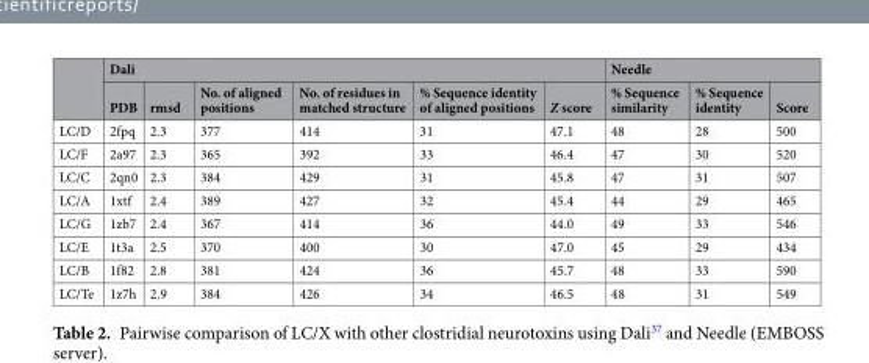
<table><thead><tr><td rowspan="2"></td><td colspan="6">Dali</td><td colspan="3">Needle</td></tr><tr><td>PDB</td><td>rmsd</td><td>No. of aligned positions</td><td>No. of residues in matched structure</td><td>% Sequence identity of aligned positions</td><td>Z score</td><td>% Sequence similarity</td><td>% Sequence identity</td><td>Score</td></tr></thead><tbody><tr><td>LC/D</td><td>2fpq</td><td>2.3</td><td>377</td><td>414</td><td>31</td><td>47.1</td><td>48</td><td>28</td><td>500</td></tr><tr><td>LC/F</td><td>2a97</td><td>2.3</td><td>365</td><td>392</td><td>33</td><td>46.4</td><td>47</td><td>30</td><td>520</td></tr><tr><td>LC/C</td><td>2qn0</td><td>2.3</td><td>384</td><td>429</td><td>31</td><td>45.8</td><td>47</td><td>31</td><td>507</td></tr><tr><td>LC/A</td><td>1xtf</td><td>2.4</td><td>389</td><td>427</td><td>32</td><td>45.4</td><td>44</td><td>29</td><td>465</td></tr><tr><td>LC/G</td><td>1zb7</td><td>2.4</td><td>367</td><td>414</td><td>36</td><td>44.0</td><td>49</td><td>33</td><td>546</td></tr><tr><td>LC/E</td><td>1t3a</td><td>2.5</td><td>370</td><td>400</td><td>30</td><td>47.0</td><td>45</td><td>29</td><td>434</td></tr><tr><td>LC/B</td><td>1f82</td><td>2.8</td><td>381</td><td>424</td><td>36</td><td>45.7</td><td>48</td><td>33</td><td>590</td></tr><tr><td>LC/Te</td><td>1z7h</td><td>2.9</td><td>384</td><td>426</td><td>34</td><td>46.5</td><td>48</td><td>31</td><td>549</td></tr></tbody></table>